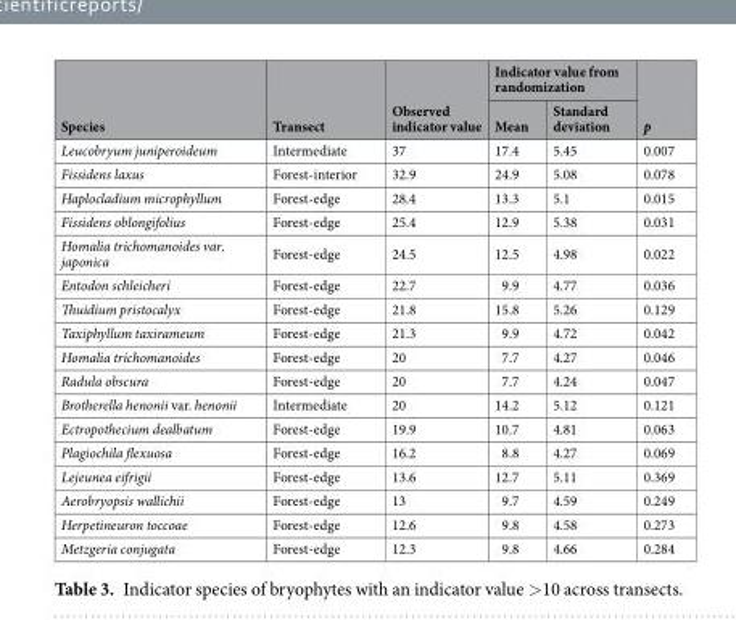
<table><thead><tr><td rowspan="2">Species</td><td rowspan="2">Transect</td><td rowspan="2">Observed indicator value</td><td colspan="2">Indicator value from randomization</td><td rowspan="2">p</td></tr><tr><td>Mean</td><td>Standard deviation</td></tr></thead><tbody><tr><td>Leucobryum juniperoideum</td><td>Intermediate</td><td>37</td><td>17.4</td><td>5.45</td><td>0.007</td></tr><tr><td>Fissidens laxus</td><td>Forest-interior</td><td>32.9</td><td>24.9</td><td>5.08</td><td>0.078</td></tr><tr><td>Haplocladium microphyllum</td><td>Forest-edge</td><td>28.4</td><td>13.3</td><td>5.1</td><td>0.015</td></tr><tr><td>Fissidens oblongifolius</td><td>Forest-edge</td><td>25.4</td><td>12.9</td><td>5.38</td><td>0.031</td></tr><tr><td>Homalia trichomanoides var. japonica</td><td>Forest-edge</td><td>24.5</td><td>12.5</td><td>4.98</td><td>0.022</td></tr><tr><td>Entodon schleicheri</td><td>Forest-edge</td><td>22.7</td><td>9.9</td><td>4.77</td><td>0.036</td></tr><tr><td>Thuidium pristocalyx</td><td>Forest-edge</td><td>21.8</td><td>15.8</td><td>5.26</td><td>0.129</td></tr><tr><td>Taxiphyllum taxirameum</td><td>Forest-edge</td><td>21.3</td><td>9.9</td><td>4.72</td><td>0.042</td></tr><tr><td>Homalia trichomanoides</td><td>Forest-edge</td><td>20</td><td>7.7</td><td>4.27</td><td>0.046</td></tr><tr><td>Radula obscura</td><td>Forest-edge</td><td>20</td><td>7.7</td><td>4.24</td><td>0.047</td></tr><tr><td>Brotherella henonii var. henonii</td><td>Intermediate</td><td>20</td><td>14.2</td><td>5.12</td><td>0.121</td></tr><tr><td>Ectropothecium dealbatum</td><td>Forest-edge</td><td>19.9</td><td>10.7</td><td>4.81</td><td>0.063</td></tr><tr><td>Plagiochila flexuosa</td><td>Forest-edge</td><td>16.2</td><td>8.8</td><td>4.27</td><td>0.069</td></tr><tr><td>Lejeunea eifrigii</td><td>Forest-edge</td><td>13.6</td><td>12.7</td><td>5.11</td><td>0.369</td></tr><tr><td>Aerobryopsis wallichii</td><td>Forest-edge</td><td>13</td><td>9.7</td><td>4.59</td><td>0.249</td></tr><tr><td>Herpetineuron toccoae</td><td>Forest-edge</td><td>12.6</td><td>9.8</td><td>4.58</td><td>0.273</td></tr><tr><td>Metzgeria conjugata</td><td>Forest-edge</td><td>12.3</td><td>9.8</td><td>4.66</td><td>0.284</td></tr></tbody></table>